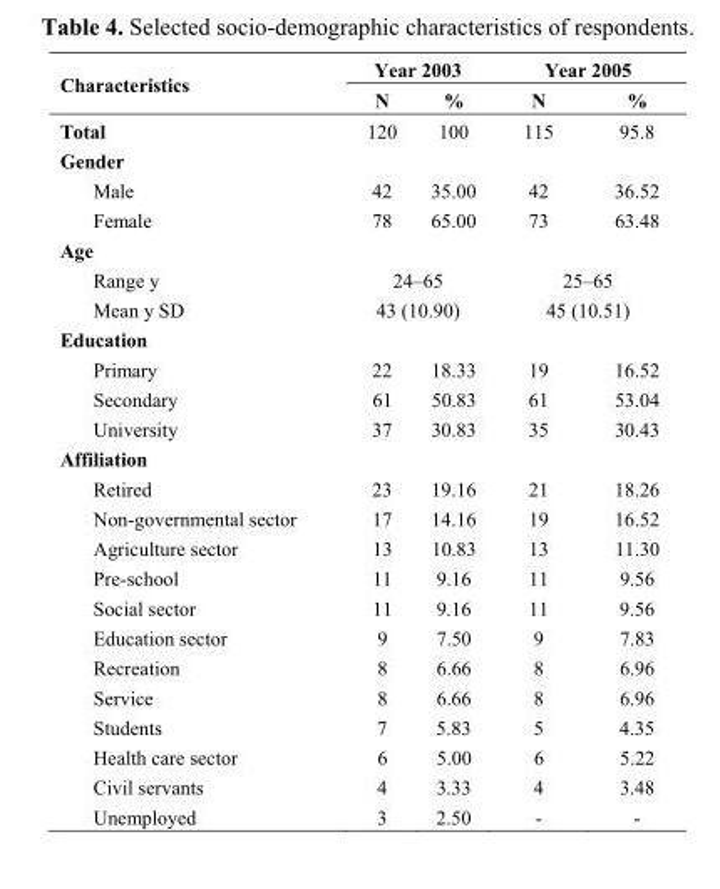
<table><thead><tr><td rowspan="2">Characteristics</td><td colspan="2">Year 2003</td><td colspan="2">Year 2005</td></tr><tr><td>N</td><td>%</td><td>N</td><td>%</td></tr></thead><tbody><tr><td>Total</td><td>120</td><td>100</td><td>115</td><td>95.8</td></tr><tr><td colspan="5">Gender</td></tr><tr><td>Male</td><td>42</td><td>35.00</td><td>42</td><td>36.52</td></tr><tr><td>Female</td><td>78</td><td>65.00</td><td>73</td><td>63.48</td></tr><tr><td colspan="5">Age</td></tr><tr><td>Range y</td><td colspan="2">24–65</td><td colspan="2">25–65</td></tr><tr><td>Mean y SD</td><td colspan="2">43 (10.90)</td><td colspan="2">45 (10.51)</td></tr><tr><td colspan="5">Education</td></tr><tr><td>Primary</td><td>22</td><td>18.33</td><td>19</td><td>16.52</td></tr><tr><td>Secondary</td><td>61</td><td>50.83</td><td>61</td><td>53.04</td></tr><tr><td>University</td><td>37</td><td>30.83</td><td>35</td><td>30.43</td></tr><tr><td colspan="5">Affiliation</td></tr><tr><td>Retired</td><td>23</td><td>19.16</td><td>21</td><td>18.26</td></tr><tr><td>Non-governmental sector</td><td>17</td><td>14.16</td><td>19</td><td>16.52</td></tr><tr><td>Agriculture sector</td><td>13</td><td>10.83</td><td>13</td><td>11.30</td></tr><tr><td>Pre-school</td><td>11</td><td>9.16</td><td>11</td><td>9.56</td></tr><tr><td>Social sector</td><td>11</td><td>9.16</td><td>11</td><td>9.56</td></tr><tr><td>Education sector</td><td>9</td><td>7.50</td><td>9</td><td>7.83</td></tr><tr><td>Recreation</td><td>8</td><td>6.66</td><td>8</td><td>6.96</td></tr><tr><td>Service</td><td>8</td><td>6.66</td><td>8</td><td>6.96</td></tr><tr><td>Students</td><td>7</td><td>5.83</td><td>5</td><td>4.35</td></tr><tr><td>Health care sector</td><td>6</td><td>5.00</td><td>6</td><td>5.22</td></tr><tr><td>Civil servants</td><td>4</td><td>3.33</td><td>4</td><td>3.48</td></tr><tr><td>Unemployed</td><td>3</td><td>2.50</td><td>-</td><td>-</td></tr></tbody></table>